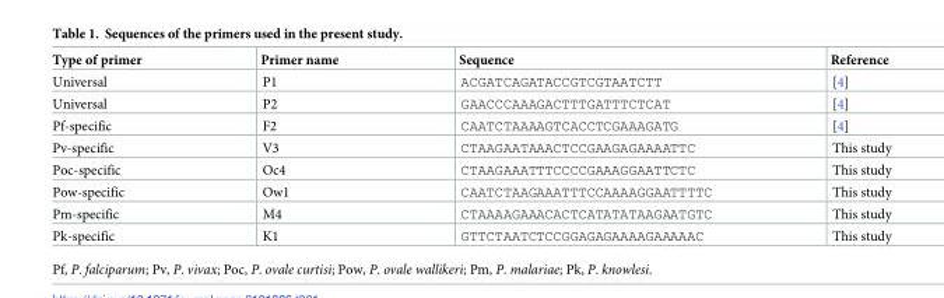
<table><thead><tr><td>Type of primer</td><td>Primer name</td><td>Sequence</td><td>Reference</td></tr></thead><tbody><tr><td>Universal</td><td>P1</td><td>ACGATCAGATACCGTCGTAATCTT</td><td>[4]</td></tr><tr><td>Universal</td><td>P2</td><td>GAACCCAAAGACTTTGATTTCTCAT</td><td>[4]</td></tr><tr><td>Pf-specific</td><td>F2</td><td>CAATCTAAAAGTCACCTCGAAAGATG</td><td>[4]</td></tr><tr><td>Pv-specific</td><td>V3</td><td>CTAAGAATAAACTCCGAAGAGAAAATTC</td><td>This study</td></tr><tr><td>Poc-specific</td><td>Oc4</td><td>CTAAGAAATTTCCCCGAAAGGAATTCTC</td><td>This study</td></tr><tr><td>Pow-specific</td><td>Ow1</td><td>CAATCTAAGAAATTTCCAAAAGGAATTTTC</td><td>This study</td></tr><tr><td>Pm-specific</td><td>M4</td><td>CTAAAAGAAACACTCATATATAAGAATGTC</td><td>This study</td></tr><tr><td>Pk-specific</td><td>K1</td><td>GTTCTAATCTCCGGAGAGAAAAGAAAAAC</td><td>This study</td></tr></tbody></table>